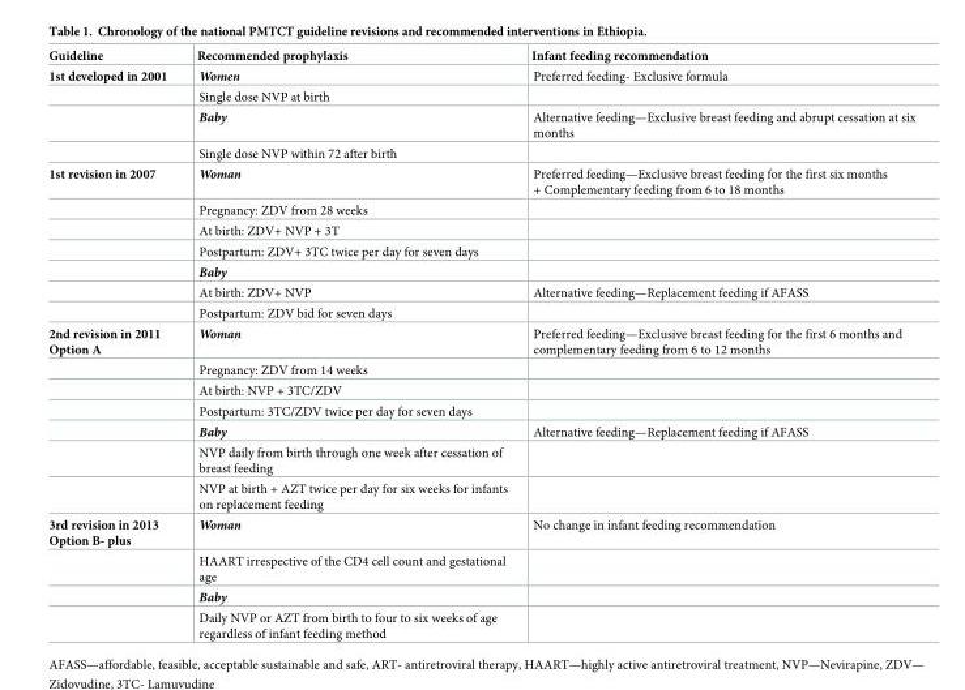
<table><thead><tr><td>Guideline</td><td>Recommended prophylaxis</td><td>Infant feeding recommendation</td></tr></thead><tbody><tr><td rowspan="4">1st developed in 2001</td><td>Women</td><td>Preferred feeding- Exclusive formula</td></tr><tr><td>Single dose NVP at birth</td><td></td></tr><tr><td>Baby</td><td>Alternative feeding—Exclusive breast feeding and abrupt cessation at six months</td></tr><tr><td>Single dose NVP within 72 after birth</td><td></td></tr><tr><td rowspan="7">1st revision in 2007</td><td>Woman</td><td>Preferred feeding—Exclusive breast feeding for the first six months + Complementary feeding from 6 to 18 months</td></tr><tr><td>Pregnancy: ZDV from 28 weeks</td><td></td></tr><tr><td>At birth: ZDV+ NVP + 3T</td><td></td></tr><tr><td>Postpartum: ZDV+ 3TC twice per day for seven days</td><td></td></tr><tr><td>Baby</td><td></td></tr><tr><td>At birth: ZDV+ NVP</td><td>Alternative feeding—Replacement feeding if AFASS</td></tr><tr><td>Postpartum: ZDV bid for seven days</td><td></td></tr><tr><td rowspan="7">2nd revision in 2011 Option A</td><td>Woman</td><td>Preferred feeding—Exclusive breast feeding for the first 6 months and complementary feeding from 6 to 12 months</td></tr><tr><td>Pregnancy: ZDV from 14 weeks</td><td></td></tr><tr><td>At birth: NVP + 3TC/ZDV</td><td></td></tr><tr><td>Postpartum: 3TC/ZDV twice per day for seven days</td><td></td></tr><tr><td>Baby</td><td>Alternative feeding—Replacement feeding if AFASS</td></tr><tr><td>NVP daily from birth through one week after cessation of breast feeding</td><td></td></tr><tr><td>NVP at birth + AZT twice per day for six weeks for infants on replacement feeding</td><td></td></tr><tr><td rowspan="4">3rd revision in 2013 Option B- plus</td><td>Woman</td><td>No change in infant feeding recommendation</td></tr><tr><td>HAART irrespective of the CD4 cell count and gestational age</td><td></td></tr><tr><td>Baby</td><td></td></tr><tr><td>Daily NVP or AZT from birth to four to six weeks of age regardless of infant feeding method</td><td></td></tr></tbody></table>